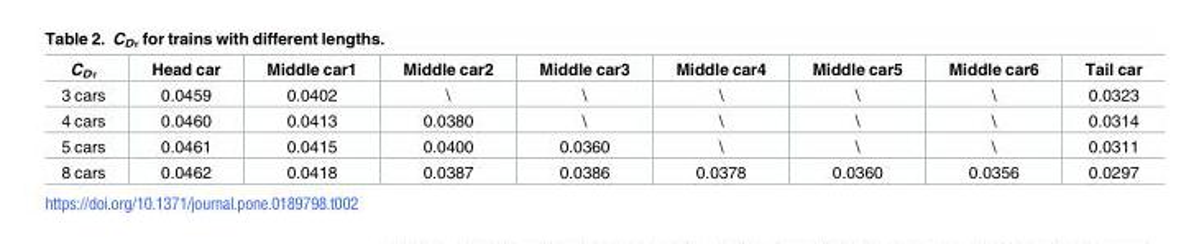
<table><thead><tr><td>C<sub>Dτ</sub></td><td>Head car</td><td>Middle car1</td><td>Middle car2</td><td>Middle car3</td><td>Middle car4</td><td>Middle car5</td><td>Middle car6</td><td>Tail car</td></tr></thead><tbody><tr><td>3 cars</td><td>0.0459</td><td>0.0402</td><td>\</td><td>\</td><td>\</td><td>\</td><td>\</td><td>0.0323</td></tr><tr><td>4 cars</td><td>0.0460</td><td>0.0413</td><td>0.0380</td><td>\</td><td>\</td><td>\</td><td>\</td><td>0.0314</td></tr><tr><td>5 cars</td><td>0.0461</td><td>0.0415</td><td>0.0400</td><td>0.0360</td><td>\</td><td>\</td><td>\</td><td>0.0311</td></tr><tr><td>8 cars</td><td>0.0462</td><td>0.0418</td><td>0.0387</td><td>0.0386</td><td>0.0378</td><td>0.0360</td><td>0.0356</td><td>0.0297</td></tr></tbody></table>